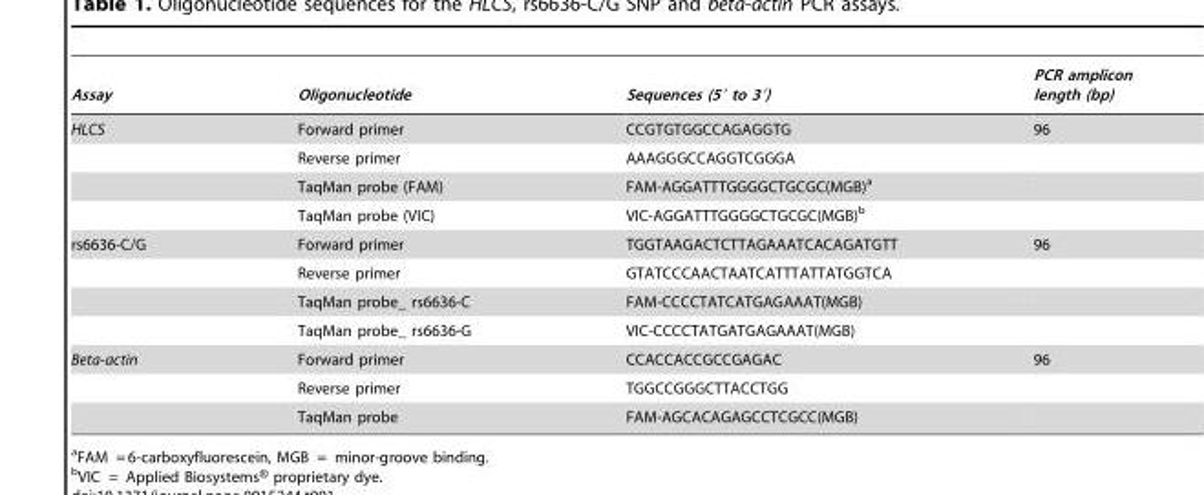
<table><thead><tr><td>Assay</td><td>Oligonucleotide</td><td>Sequences (5′ to 3′)</td><td>PCR amplicon length (bp)</td></tr></thead><tbody><tr><td rowspan="4">HLCS</td><td>Forward primer</td><td>CCGTGTGGCCAGAGGTG</td><td>96</td></tr><tr><td>Reverse primer</td><td>AAAGGGCCAGGTCGGGA</td><td></td></tr><tr><td>TaqMan probe (FAM)</td><td>FAM-AGGATTTGGGGCTGCGC(MGB)<sup>a</sup></td><td></td></tr><tr><td>TaqMan probe (VIC)</td><td>VIC-AGGATTTGGGGCTGCGC(MGB)<sup>b</sup></td><td></td></tr><tr><td rowspan="4">rs6636-C/G</td><td>Forward primer</td><td>TGGTAAGACTCTTAGAAATCACAGATGTT</td><td>96</td></tr><tr><td>Reverse primer</td><td>GTATCCCAACTAATCATTTATTATGGTCA</td><td></td></tr><tr><td>TaqMan probe_ rs6636-C</td><td>FAM-CCCCTATCATGAGAAAT(MGB)</td><td></td></tr><tr><td>TaqMan probe_ rs6636-G</td><td>VIC-CCCCTATGATGAGAAAT(MGB)</td><td></td></tr><tr><td rowspan="3">Beta-actin</td><td>Forward primer</td><td>CCACCACCGCCGAGAC</td><td>96</td></tr><tr><td>Reverse primer</td><td>TGGCCGGGCTTACCTGG</td><td></td></tr><tr><td>TaqMan probe</td><td>FAM-AGCACAGAGCCTCGCC(MGB)</td><td></td></tr></tbody></table>